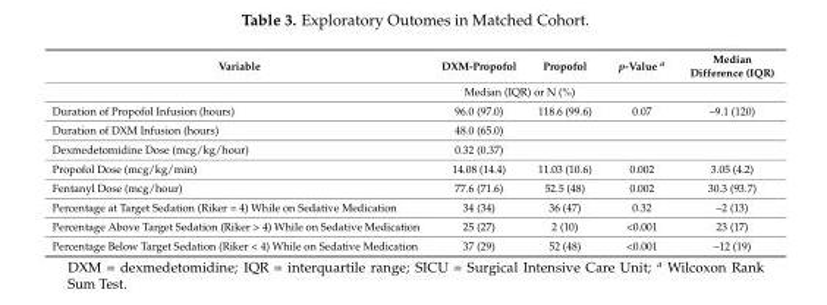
<table><thead><tr><td>Variable</td><td>DXM-Propofol</td><td>Propofol</td><td>p-Value <sup>a</sup></td><td>Median Difference (IQR)</td></tr></thead><tbody><tr><td></td><td colspan="2">Median (IQR) or N (%)</td><td colspan="2"></td></tr><tr><td>Duration of Propofol Infusion (hours)</td><td>96.0 (97.0)</td><td>118.6 (99.6)</td><td>0.07</td><td>–9.1 (120)</td></tr><tr><td>Duration of DXM Infusion (hours)</td><td>48.0 (65.0)</td><td></td><td></td><td></td></tr><tr><td>Dexmedetomidine Dose (mcg/kg/hour)</td><td>0.32 (0.37)</td><td></td><td></td><td></td></tr><tr><td>Propofol Dose (mcg/kg/min)</td><td>14.08 (14.4)</td><td>11.03 (10.6)</td><td>0.002</td><td>3.05 (4.2)</td></tr><tr><td>Fentanyl Dose (mcg/hour)</td><td>77.6 (71.6)</td><td>52.5 (48)</td><td>0.002</td><td>30.3 (93.7)</td></tr><tr><td>Percentage at Target Sedation (Riker = 4) While on Sedative Medication</td><td>34 (34)</td><td>36 (47)</td><td>0.32</td><td>–2 (13)</td></tr><tr><td>Percentage Above Target Sedation (Riker &gt; 4) While on Sedative Medication</td><td>25 (27)</td><td>2 (10)</td><td>&lt;0.001</td><td>23 (17)</td></tr><tr><td>Percentage Below Target Sedation (Riker &lt; 4) While on Sedative Medication</td><td>37 (29)</td><td>52 (48)</td><td>&lt;0.001</td><td>–12 (19)</td></tr></tbody></table>